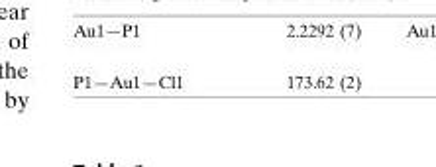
<table><tbody><tr><td>P1—Au1—Cl1</td><td>173.62 (2)</td></tr></tbody></table>